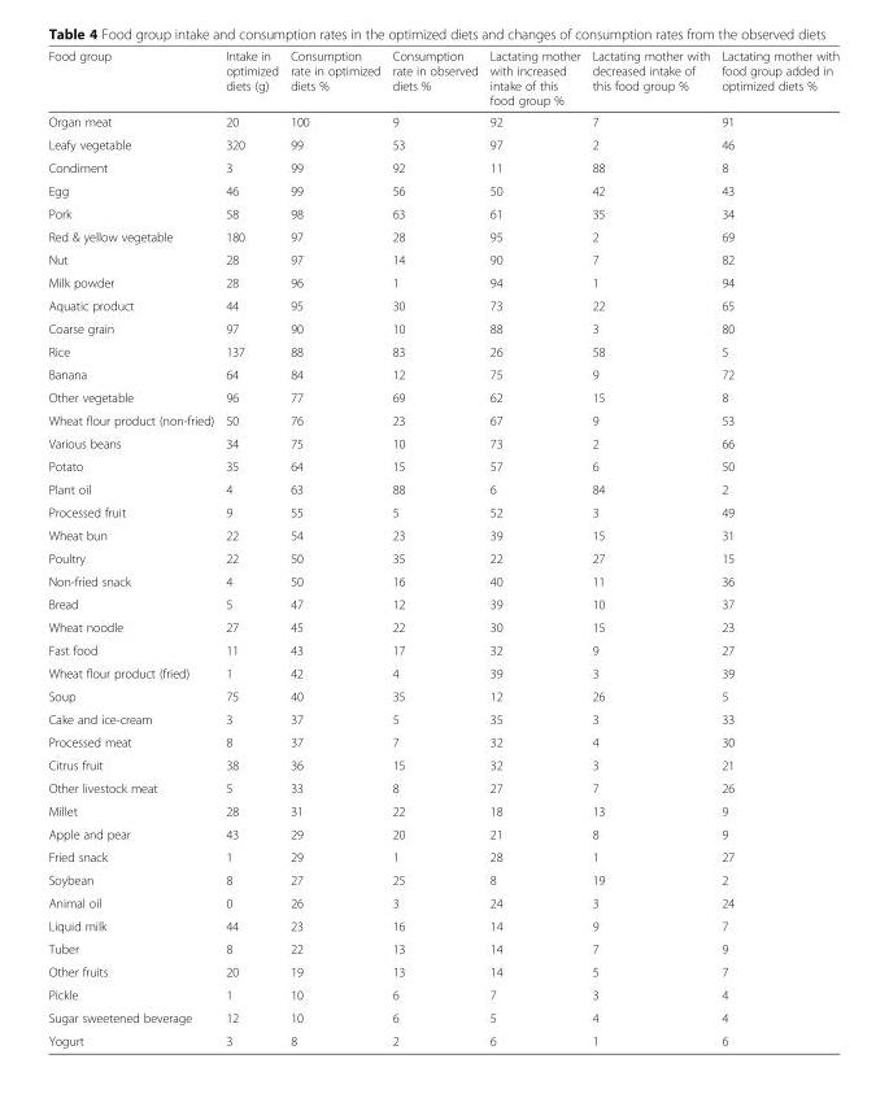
<table><thead><tr><td>Food group</td><td>Intake in optimized diets (g)</td><td>Consumption rate in optimized diets %</td><td>Consumption rate in observed diets %</td><td>Lactating mother with increased intake of this food group %</td><td>Lactating mother with decreased intake of this food group %</td><td>Lactating mother with food group added in optimized diets %</td></tr></thead><tbody><tr><td>Organ meat</td><td>20</td><td>100</td><td>9</td><td>92</td><td>7</td><td>91</td></tr><tr><td>Leafy vegetable</td><td>320</td><td>99</td><td>53</td><td>97</td><td>2</td><td>46</td></tr><tr><td>Condiment</td><td>3</td><td>99</td><td>92</td><td>11</td><td>88</td><td>8</td></tr><tr><td>Egg</td><td>46</td><td>99</td><td>56</td><td>50</td><td>42</td><td>43</td></tr><tr><td>Pork</td><td>58</td><td>98</td><td>63</td><td>61</td><td>35</td><td>34</td></tr><tr><td>Red &amp; yellow vegetable</td><td>180</td><td>97</td><td>28</td><td>95</td><td>2</td><td>69</td></tr><tr><td>Nut</td><td>28</td><td>97</td><td>14</td><td>90</td><td>7</td><td>82</td></tr><tr><td>Milk powder</td><td>28</td><td>96</td><td>1</td><td>94</td><td>1</td><td>94</td></tr><tr><td>Aquatic product</td><td>44</td><td>95</td><td>30</td><td>73</td><td>22</td><td>65</td></tr><tr><td>Coarse grain</td><td>97</td><td>90</td><td>10</td><td>88</td><td>3</td><td>80</td></tr><tr><td>Rice</td><td>137</td><td>88</td><td>83</td><td>26</td><td>58</td><td>5</td></tr><tr><td>Banana</td><td>64</td><td>84</td><td>12</td><td>75</td><td>9</td><td>72</td></tr><tr><td>Other vegetable</td><td>96</td><td>77</td><td>69</td><td>62</td><td>15</td><td>8</td></tr><tr><td>Wheat flour product (non-fried)</td><td>50</td><td>76</td><td>23</td><td>67</td><td>9</td><td>53</td></tr><tr><td>Various beans</td><td>34</td><td>75</td><td>10</td><td>73</td><td>2</td><td>66</td></tr><tr><td>Potato</td><td>35</td><td>64</td><td>15</td><td>57</td><td>6</td><td>50</td></tr><tr><td>Plant oil</td><td>4</td><td>63</td><td>88</td><td>6</td><td>84</td><td>2</td></tr><tr><td>Processed fruit</td><td>9</td><td>55</td><td>5</td><td>52</td><td>3</td><td>49</td></tr><tr><td>Wheat bun</td><td>22</td><td>54</td><td>23</td><td>39</td><td>15</td><td>31</td></tr><tr><td>Poultry</td><td>22</td><td>50</td><td>35</td><td>22</td><td>27</td><td>15</td></tr><tr><td>Non-fried snack</td><td>4</td><td>50</td><td>16</td><td>40</td><td>11</td><td>36</td></tr><tr><td>Bread</td><td>5</td><td>47</td><td>12</td><td>39</td><td>10</td><td>37</td></tr><tr><td>Wheat noodle</td><td>27</td><td>45</td><td>22</td><td>30</td><td>15</td><td>23</td></tr><tr><td>Fast food</td><td>11</td><td>43</td><td>17</td><td>32</td><td>9</td><td>27</td></tr><tr><td>Wheat flour product (fried)</td><td>1</td><td>42</td><td>4</td><td>39</td><td>3</td><td>39</td></tr><tr><td>Soup</td><td>75</td><td>40</td><td>35</td><td>12</td><td>26</td><td>5</td></tr><tr><td>Cake and ice-cream</td><td>3</td><td>37</td><td>5</td><td>35</td><td>3</td><td>33</td></tr><tr><td>Processed meat</td><td>8</td><td>37</td><td>7</td><td>32</td><td>4</td><td>30</td></tr><tr><td>Citrus fruit</td><td>38</td><td>36</td><td>15</td><td>32</td><td>3</td><td>21</td></tr><tr><td>Other livestock meat</td><td>5</td><td>33</td><td>8</td><td>27</td><td>7</td><td>26</td></tr><tr><td>Millet</td><td>28</td><td>31</td><td>22</td><td>18</td><td>13</td><td>9</td></tr><tr><td>Apple and pear</td><td>43</td><td>29</td><td>20</td><td>21</td><td>8</td><td>9</td></tr><tr><td>Fried snack</td><td>1</td><td>29</td><td>1</td><td>28</td><td>1</td><td>27</td></tr><tr><td>Soybean</td><td>8</td><td>27</td><td>25</td><td>8</td><td>19</td><td>2</td></tr><tr><td>Animal oil</td><td>0</td><td>26</td><td>3</td><td>24</td><td>3</td><td>24</td></tr><tr><td>Liquid milk</td><td>44</td><td>23</td><td>16</td><td>14</td><td>9</td><td>7</td></tr><tr><td>Tuber</td><td>8</td><td>22</td><td>13</td><td>14</td><td>7</td><td>9</td></tr><tr><td>Other fruits</td><td>20</td><td>19</td><td>13</td><td>14</td><td>5</td><td>7</td></tr><tr><td>Pickle</td><td>1</td><td>10</td><td>6</td><td>7</td><td>3</td><td>4</td></tr><tr><td>Sugar sweetened beverage</td><td>12</td><td>10</td><td>6</td><td>5</td><td>4</td><td>4</td></tr><tr><td>Yogurt</td><td>3</td><td>8</td><td>2</td><td>6</td><td>1</td><td>6</td></tr></tbody></table>